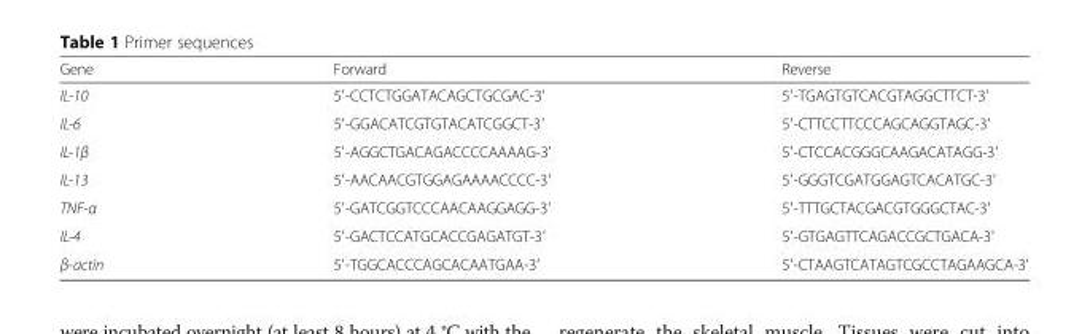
<table><thead><tr><td>Gene</td><td>Forward</td><td>Reverse</td></tr></thead><tbody><tr><td>IL-10</td><td>5′-CCTCTGGATACAGCTGCGAC-3′</td><td>5′-TGAGTGTCACGTAGGCTTCT-3′</td></tr><tr><td>IL-6</td><td>5′-GGACATCGTGTACATCGGCT-3′</td><td>5′-CTTCCTTCCCAGCAGGTAGC-3′</td></tr><tr><td>IL-1β</td><td>5′-AGGCTGACAGACCCCAAAAG-3′</td><td>5′-CTCCACGGGCAAGACATAGG-3′</td></tr><tr><td>IL-13</td><td>5′-AACAACGTGGAGAAAACCCC-3′</td><td>5′-GGGTCGATGGAGTCACATGC-3′</td></tr><tr><td>TNF-α</td><td>5′-GATCGGTCCCAACAAGGAGG-3′</td><td>5′-TTTGCTACGACGTGGGCTAC-3′</td></tr><tr><td>IL-4</td><td>5′-GACTCCATGCACCGAGATGT-3′</td><td>5′-GTGAGTTCAGACCGCTGACA-3′</td></tr><tr><td>β-actin</td><td>5′-TGGCACCCAGCACAATGAA-3′</td><td>5′-CTAAGTCATAGTCGCCTAGAAGCA-3′</td></tr></tbody></table>